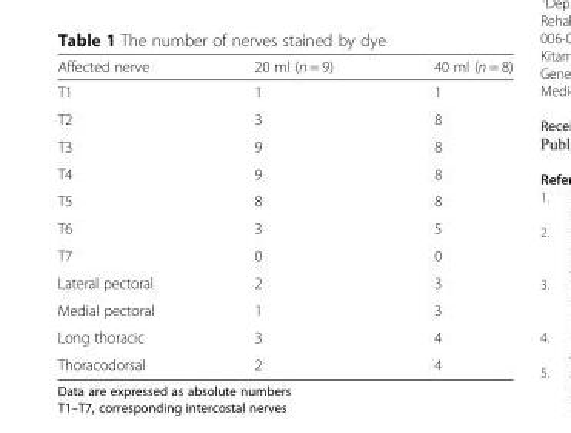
<table><thead><tr><td>Affected nerve</td><td>20 ml (n = 9)</td><td>40 ml (n = 8)</td></tr></thead><tbody><tr><td>T1</td><td>1</td><td>1</td></tr><tr><td>T2</td><td>3</td><td>8</td></tr><tr><td>T3</td><td>9</td><td>8</td></tr><tr><td>T4</td><td>9</td><td>8</td></tr><tr><td>T5</td><td>8</td><td>8</td></tr><tr><td>T6</td><td>3</td><td>5</td></tr><tr><td>T7</td><td>0</td><td>0</td></tr><tr><td>Lateral pectoral</td><td>2</td><td>3</td></tr><tr><td>Medial pectoral</td><td>1</td><td>3</td></tr><tr><td>Long thoracic</td><td>3</td><td>4</td></tr><tr><td>Thoracodorsal</td><td>2</td><td>4</td></tr></tbody></table>